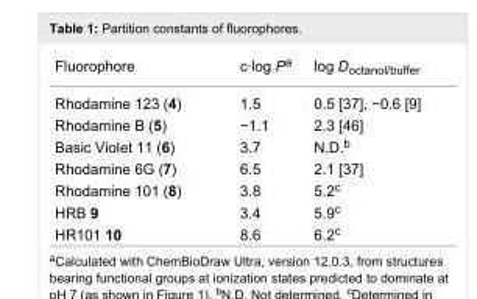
<table><tbody><tr><td>Fluorophore</td><td>c·log P<sup>a</sup></td><td>log D<sub>octanol/buffer</sub></td></tr><tr><td>Rhodamine 123 (4)</td><td>1.5</td><td>0.5 [37], −0.6 [9]</td></tr><tr><td>Rhodamine B (5)</td><td>−1.1</td><td>2.3 [46]</td></tr><tr><td>Basic Violet 11 (6)</td><td>3.7</td><td>N.D.<sup>b</sup></td></tr><tr><td>Rhodamine 6G (7)</td><td>6.5</td><td>2.1 [37]</td></tr><tr><td>Rhodamine 101 (8)</td><td>3.8</td><td>5.2<sup>c</sup></td></tr><tr><td>HRB 9</td><td>3.4</td><td>5.9<sup>c</sup></td></tr><tr><td>HR101 10</td><td>8.6</td><td>6.2<sup>c</sup></td></tr></tbody></table>